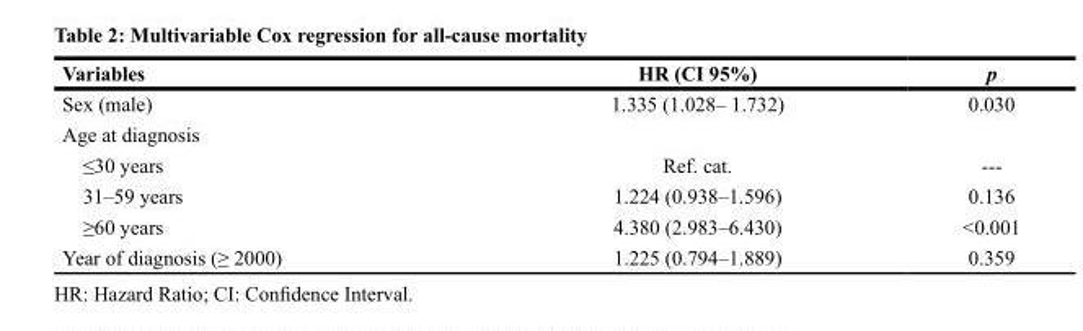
<table><thead><tr><td>Variables</td><td>HR (CI 95%)</td><td>p</td></tr></thead><tbody><tr><td>Sex (male)</td><td>1.335 (1.028– 1.732)</td><td>0.030</td></tr><tr><td colspan="3">Age at diagnosis</td></tr><tr><td>≤30 years</td><td>Ref. cat.</td><td>---</td></tr><tr><td>31–59 years</td><td>1.224 (0.938–1.596)</td><td>0.136</td></tr><tr><td>≥60 years</td><td>4.380 (2.983–6.430)</td><td>&lt;0.001</td></tr><tr><td>Year of diagnosis (≥ 2000)</td><td>1.225 (0.794–1.889)</td><td>0.359</td></tr></tbody></table>